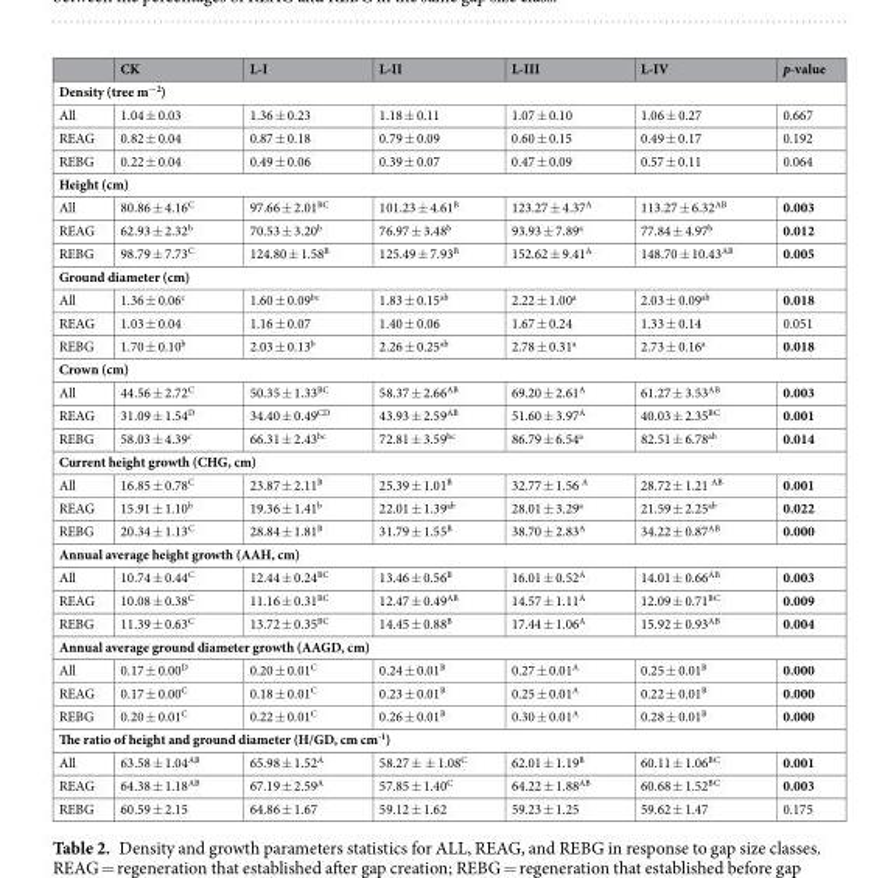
<table><thead><tr><td></td><td>CK</td><td>L-I</td><td>L-II</td><td>L-III</td><td>L-IV</td><td>p-value</td></tr></thead><tbody><tr><td colspan="7">Density (tree m<sup>−2</sup>)</td></tr><tr><td>All</td><td>1.04 ± 0.03</td><td>1.36 ± 0.23</td><td>1.18 ± 0.11</td><td>1.07 ± 0.10</td><td>1.06 ± 0.27</td><td>0.667</td></tr><tr><td>REAG</td><td>0.82 ± 0.04</td><td>0.87 ± 0.18</td><td>0.79 ± 0.09</td><td>0.60 ± 0.15</td><td>0.49 ± 0.17</td><td>0.192</td></tr><tr><td>REBG</td><td>0.22 ± 0.04</td><td>0.49 ± 0.06</td><td>0.39 ± 0.07</td><td>0.47 ± 0.09</td><td>0.57 ± 0.11</td><td>0.064</td></tr><tr><td colspan="7">Height (cm)</td></tr><tr><td>All</td><td>80.86 ± 4.16<sup>C</sup></td><td>97.66 ± 2.01<sup>BC</sup></td><td>101.23 ± 4.61<sup>B</sup></td><td>123.27 ± 4.37<sup>A</sup></td><td>113.27 ± 6.32<sup>AB</sup></td><td>0.003</td></tr><tr><td>REAG</td><td>62.93 ± 2.32<sup>b</sup></td><td>70.53 ± 3.20<sup>b</sup></td><td>76.97 ± 3.48<sup>b</sup></td><td>93.93 ± 7.89<sup>a</sup></td><td>77.84 ± 4.97<sup>b</sup></td><td>0.012</td></tr><tr><td>REBG</td><td>98.79 ± 7.73<sup>C</sup></td><td>124.80 ± 1.58<sup>B</sup></td><td>125.49 ± 7.93<sup>B</sup></td><td>152.62 ± 9.41<sup>A</sup></td><td>148.70 ± 10.43<sup>AB</sup></td><td>0.005</td></tr><tr><td colspan="7">Ground diameter (cm)</td></tr><tr><td>All</td><td>1.36 ± 0.06<sup>c</sup></td><td>1.60 ± 0.09<sup>bc</sup></td><td>1.83 ± 0.15<sup>ab</sup></td><td>2.22 ± 1.00<sup>a</sup></td><td>2.03 ± 0.09<sup>ab</sup></td><td>0.018</td></tr><tr><td>REAG</td><td>1.03 ± 0.04</td><td>1.16 ± 0.07</td><td>1.40 ± 0.06</td><td>1.67 ± 0.24</td><td>1.33 ± 0.14</td><td>0.051</td></tr><tr><td>REBG</td><td>1.70 ± 0.10<sup>b</sup></td><td>2.03 ± 0.13<sup>b</sup></td><td>2.26 ± 0.25<sup>ab</sup></td><td>2.78 ± 0.31<sup>a</sup></td><td>2.73 ± 0.16<sup>a</sup></td><td>0.018</td></tr><tr><td colspan="7">Crown (cm)</td></tr><tr><td>All</td><td>44.56 ± 2.72<sup>C</sup></td><td>50.35 ± 1.33<sup>BC</sup></td><td>58.37 ± 2.66<sup>AB</sup></td><td>69.20 ± 2.61<sup>A</sup></td><td>61.27 ± 3.53<sup>AB</sup></td><td>0.003</td></tr><tr><td>REAG</td><td>31.09 ± 1.54<sup>D</sup></td><td>34.40 ± 0.49<sup>CD</sup></td><td>43.93 ± 2.59<sup>AB</sup></td><td>51.60 ± 3.97<sup>A</sup></td><td>40.03 ± 2.35<sup>BC</sup></td><td>0.001</td></tr><tr><td>REBG</td><td>58.03 ± 4.39<sup>c</sup></td><td>66.31 ± 2.43<sup>bc</sup></td><td>72.81 ± 3.59<sup>bc</sup></td><td>86.79 ± 6.54<sup>a</sup></td><td>82.51 ± 6.78<sup>ab</sup></td><td>0.014</td></tr><tr><td colspan="7">Current height growth (CHG, cm)</td></tr><tr><td>All</td><td>16.85 ± 0.78<sup>C</sup></td><td>23.87 ± 2.11<sup>B</sup></td><td>25.39 ± 1.01<sup>B</sup></td><td>32.77 ± 1.56 <sup>A</sup></td><td>28.72 ± 1.21 <sup>AB</sup></td><td>0.001</td></tr><tr><td>REAG</td><td>15.91 ± 1.10<sup>b</sup></td><td>19.36 ± 1.41<sup>b</sup></td><td>22.01 ± 1.39<sup>ab</sup></td><td>28.01 ± 3.29<sup>a</sup></td><td>21.59 ± 2.25<sup>ab</sup></td><td>0.022</td></tr><tr><td>REBG</td><td>20.34 ± 1.13<sup>C</sup></td><td>28.84 ± 1.81<sup>B</sup></td><td>31.79 ± 1.55<sup>B</sup></td><td>38.70 ± 2.83<sup>A</sup></td><td>34.22 ± 0.87<sup>AB</sup></td><td>0.000</td></tr><tr><td colspan="7">Annual average height growth (AAH, cm)</td></tr><tr><td>All</td><td>10.74 ± 0.44<sup>C</sup></td><td>12.44 ± 0.24<sup>BC</sup></td><td>13.46 ± 0.56<sup>B</sup></td><td>16.01 ± 0.52<sup>A</sup></td><td>14.01 ± 0.66<sup>AB</sup></td><td>0.003</td></tr><tr><td>REAG</td><td>10.08 ± 0.38<sup>C</sup></td><td>11.16 ± 0.31<sup>BC</sup></td><td>12.47 ± 0.49<sup>AB</sup></td><td>14.57 ± 1.11<sup>A</sup></td><td>12.09 ± 0.71<sup>BC</sup></td><td>0.009</td></tr><tr><td>REBG</td><td>11.39 ± 0.63<sup>C</sup></td><td>13.72 ± 0.35<sup>BC</sup></td><td>14.45 ± 0.88<sup>B</sup></td><td>17.44 ± 1.06<sup>A</sup></td><td>15.92 ± 0.93<sup>AB</sup></td><td>0.004</td></tr><tr><td colspan="7">Annual average ground diameter growth (AAGD, cm)</td></tr><tr><td>All</td><td>0.17 ± 0.00<sup>D</sup></td><td>0.20 ± 0.01<sup>C</sup></td><td>0.24 ± 0.01<sup>B</sup></td><td>0.27 ± 0.01<sup>A</sup></td><td>0.25 ± 0.01<sup>B</sup></td><td>0.000</td></tr><tr><td>REAG</td><td>0.17 ± 0.00<sup>C</sup></td><td>0.18 ± 0.01<sup>C</sup></td><td>0.23 ± 0.01<sup>B</sup></td><td>0.25 ± 0.01<sup>A</sup></td><td>0.22 ± 0.01<sup>B</sup></td><td>0.000</td></tr><tr><td>REBG</td><td>0.20 ± 0.01<sup>C</sup></td><td>0.22 ± 0.01<sup>C</sup></td><td>0.26 ± 0.01<sup>B</sup></td><td>0.30 ± 0.01<sup>A</sup></td><td>0.28 ± 0.01<sup>B</sup></td><td>0.000</td></tr><tr><td colspan="7">The ratio of height and ground diameter (H/GD, cm cm<sup>-1</sup>)</td></tr><tr><td>All</td><td>63.58 ± 1.04<sup>AB</sup></td><td>65.98 ± 1.52<sup>A</sup></td><td>58.27 ± ± 1.08<sup>C</sup></td><td>62.01 ± 1.19<sup>B</sup></td><td>60.11 ± 1.06<sup>BC</sup></td><td>0.001</td></tr><tr><td>REAG</td><td>64.38 ± 1.18<sup>AB</sup></td><td>67.19 ± 2.59<sup>A</sup></td><td>57.85 ± 1.40<sup>C</sup></td><td>64.22 ± 1.88<sup>AB</sup></td><td>60.68 ± 1.52<sup>BC</sup></td><td>0.003</td></tr><tr><td>REBG</td><td>60.59 ± 2.15</td><td>64.86 ± 1.67</td><td>59.12 ± 1.62</td><td>59.23 ± 1.25</td><td>59.62 ± 1.47</td><td>0.175</td></tr></tbody></table>